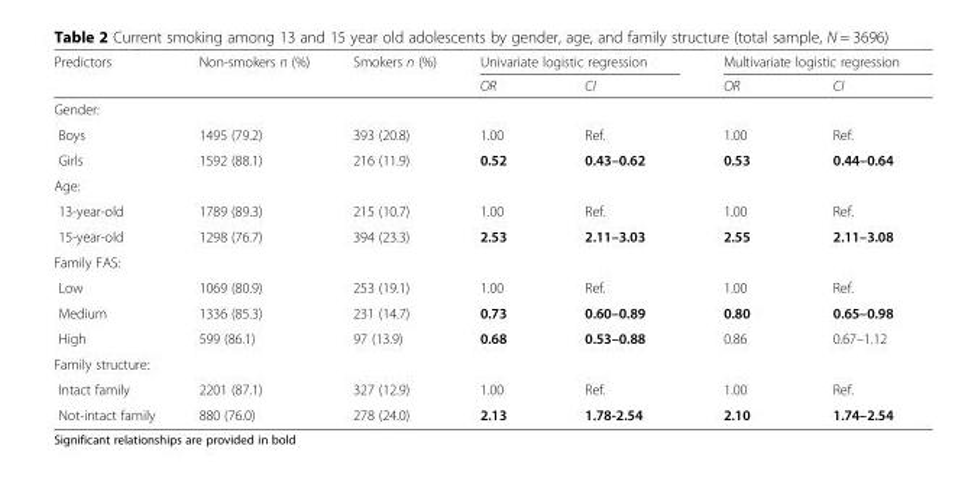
<table><thead><tr><td rowspan="2">Predictors</td><td rowspan="2">Non-smokers n (%)</td><td rowspan="2">Smokers n (%)</td><td colspan="2">Univariate logistic regression</td><td colspan="2">Multivariate logistic regression</td></tr><tr><td>OR</td><td>CI</td><td>OR</td><td>CI</td></tr></thead><tbody><tr><td colspan="7">Gender:</td></tr><tr><td>Boys</td><td>1495 (79.2)</td><td>393 (20.8)</td><td>1.00</td><td>Ref.</td><td>1.00</td><td>Ref.</td></tr><tr><td>Girls</td><td>1592 (88.1)</td><td>216 (11.9)</td><td>0.52</td><td>0.43–0.62</td><td>0.53</td><td>0.44–0.64</td></tr><tr><td colspan="7">Age:</td></tr><tr><td>13-year-old</td><td>1789 (89.3)</td><td>215 (10.7)</td><td>1.00</td><td>Ref.</td><td>1.00</td><td>Ref.</td></tr><tr><td>15-year-old</td><td>1298 (76.7)</td><td>394 (23.3)</td><td>2.53</td><td>2.11–3.03</td><td>2.55</td><td>2.11–3.08</td></tr><tr><td colspan="7">Family FAS:</td></tr><tr><td>Low</td><td>1069 (80.9)</td><td>253 (19.1)</td><td>1.00</td><td>Ref.</td><td>1.00</td><td>Ref.</td></tr><tr><td>Medium</td><td>1336 (85.3)</td><td>231 (14.7)</td><td>0.73</td><td>0.60–0.89</td><td>0.80</td><td>0.65–0.98</td></tr><tr><td>High</td><td>599 (86.1)</td><td>97 (13.9)</td><td>0.68</td><td>0.53–0.88</td><td>0.86</td><td>0.67–1.12</td></tr><tr><td colspan="7">Family structure:</td></tr><tr><td>Intact family</td><td>2201 (87.1)</td><td>327 (12.9)</td><td>1.00</td><td>Ref.</td><td>1.00</td><td>Ref.</td></tr><tr><td>Not-intact family</td><td>880 (76.0)</td><td>278 (24.0)</td><td>2.13</td><td>1.78-2.54</td><td>2.10</td><td>1.74–2.54</td></tr></tbody></table>